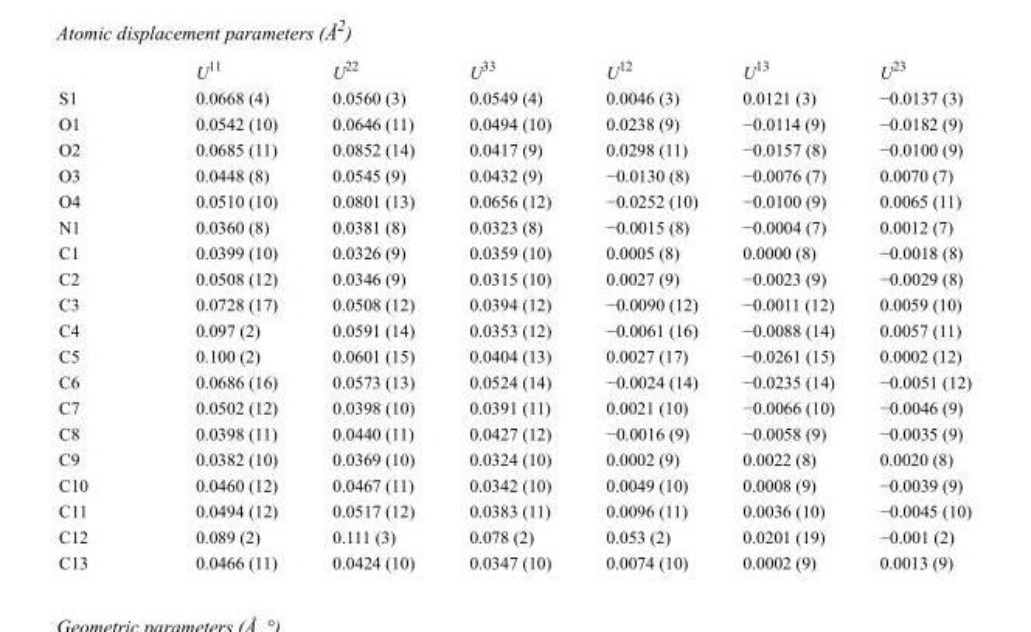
<table><thead><tr><td></td><td>U<sup>11</sup></td><td>U<sup>22</sup></td><td>U<sup>33</sup></td><td>U<sup>12</sup></td><td>U<sup>13</sup></td><td>U<sup>23</sup></td></tr></thead><tbody><tr><td>S1</td><td>0.0668 (4)</td><td>0.0560 (3)</td><td>0.0549 (4)</td><td>0.0046 (3)</td><td>0.0121 (3)</td><td>−0.0137 (3)</td></tr><tr><td>O1</td><td>0.0542 (10)</td><td>0.0646 (11)</td><td>0.0494 (10)</td><td>0.0238 (9)</td><td>−0.0114 (9)</td><td>−0.0182 (9)</td></tr><tr><td>O2</td><td>0.0685 (11)</td><td>0.0852 (14)</td><td>0.0417 (9)</td><td>0.0298 (11)</td><td>−0.0157 (8)</td><td>−0.0100 (9)</td></tr><tr><td>O3</td><td>0.0448 (8)</td><td>0.0545 (9)</td><td>0.0432 (9)</td><td>−0.0130 (8)</td><td>−0.0076 (7)</td><td>0.0070 (7)</td></tr><tr><td>O4</td><td>0.0510 (10)</td><td>0.0801 (13)</td><td>0.0656 (12)</td><td>−0.0252 (10)</td><td>−0.0100 (9)</td><td>0.0065 (11)</td></tr><tr><td>N1</td><td>0.0360 (8)</td><td>0.0381 (8)</td><td>0.0323 (8)</td><td>−0.0015 (8)</td><td>−0.0004 (7)</td><td>0.0012 (7)</td></tr><tr><td>C1</td><td>0.0399 (10)</td><td>0.0326 (9)</td><td>0.0359 (10)</td><td>0.0005 (8)</td><td>0.0000 (8)</td><td>−0.0018 (8)</td></tr><tr><td>C2</td><td>0.0508 (12)</td><td>0.0346 (9)</td><td>0.0315 (10)</td><td>0.0027 (9)</td><td>−0.0023 (9)</td><td>−0.0029 (8)</td></tr><tr><td>C3</td><td>0.0728 (17)</td><td>0.0508 (12)</td><td>0.0394 (12)</td><td>−0.0090 (12)</td><td>−0.0011 (12)</td><td>0.0059 (10)</td></tr><tr><td>C4</td><td>0.097 (2)</td><td>0.0591 (14)</td><td>0.0353 (12)</td><td>−0.0061 (16)</td><td>−0.0088 (14)</td><td>0.0057 (11)</td></tr><tr><td>C5</td><td>0.100 (2)</td><td>0.0601 (15)</td><td>0.0404 (13)</td><td>0.0027 (17)</td><td>−0.0261 (15)</td><td>0.0002 (12)</td></tr><tr><td>C6</td><td>0.0686 (16)</td><td>0.0573 (13)</td><td>0.0524 (14)</td><td>−0.0024 (14)</td><td>−0.0235 (14)</td><td>−0.0051 (12)</td></tr><tr><td>C7</td><td>0.0502 (12)</td><td>0.0398 (10)</td><td>0.0391 (11)</td><td>0.0021 (10)</td><td>−0.0066 (10)</td><td>−0.0046 (9)</td></tr><tr><td>C8</td><td>0.0398 (11)</td><td>0.0440 (11)</td><td>0.0427 (12)</td><td>−0.0016 (9)</td><td>−0.0058 (9)</td><td>−0.0035 (9)</td></tr><tr><td>C9</td><td>0.0382 (10)</td><td>0.0369 (10)</td><td>0.0324 (10)</td><td>0.0002 (9)</td><td>0.0022 (8)</td><td>0.0020 (8)</td></tr><tr><td>C10</td><td>0.0460 (12)</td><td>0.0467 (11)</td><td>0.0342 (10)</td><td>0.0049 (10)</td><td>0.0008 (9)</td><td>−0.0039 (9)</td></tr><tr><td>C11</td><td>0.0494 (12)</td><td>0.0517 (12)</td><td>0.0383 (11)</td><td>0.0096 (11)</td><td>0.0036 (10)</td><td>−0.0045 (10)</td></tr><tr><td>C12</td><td>0.089 (2)</td><td>0.111 (3)</td><td>0.078 (2)</td><td>0.053 (2)</td><td>0.0201 (19)</td><td>−0.001 (2)</td></tr><tr><td>C13</td><td>0.0466 (11)</td><td>0.0424 (10)</td><td>0.0347 (10)</td><td>0.0074 (10)</td><td>0.0002 (9)</td><td>0.0013 (9)</td></tr></tbody></table>